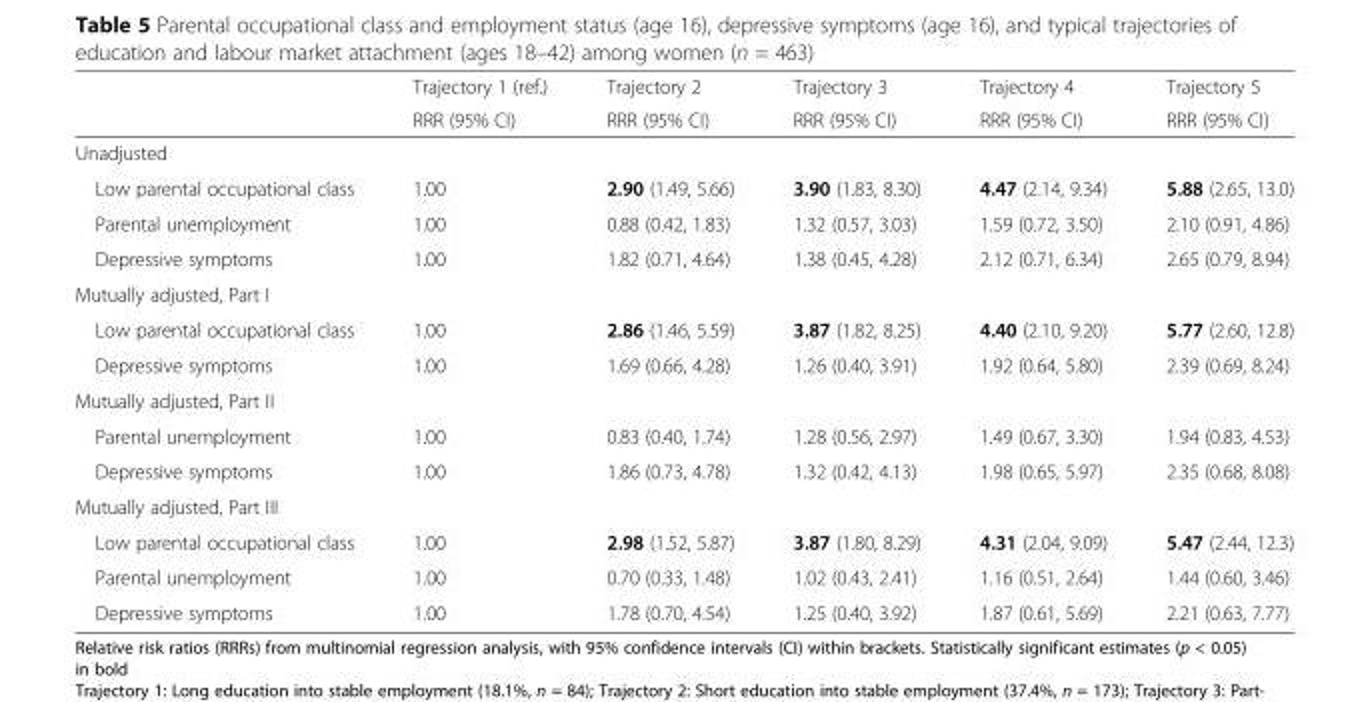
<table><thead><tr><td rowspan="2"></td><td rowspan="2">Trajectory 1 (ref.) RRR (95% CI)</td><td rowspan="2">Trajectory 2 RRR (95% CI)</td><td rowspan="2">Trajectory 3 RRR (95% CI)</td><td rowspan="2">Trajectory 4 RRR (95% CI)</td><td rowspan="2">Trajectory 5 RRR (95% CI)</td></tr><tr></tr></thead><tbody><tr><td colspan="6">Unadjusted</td></tr><tr><td>Low parental occupational class</td><td>1.00</td><td>2.90 (1.49, 5.66)</td><td>3.90 (1.83, 8.30)</td><td>4.47 (2.14, 9.34)</td><td>5.88 (2.65, 13.0)</td></tr><tr><td>Parental unemployment</td><td>1.00</td><td>0.88 (0.42, 1.83)</td><td>1.32 (0.57, 3.03)</td><td>1.59 (0.72, 3.50)</td><td>2.10 (0.91, 4.86)</td></tr><tr><td>Depressive symptoms</td><td>1.00</td><td>1.82 (0.71, 4.64)</td><td>1.38 (0.45, 4.28)</td><td>2.12 (0.71, 6.34)</td><td>2.65 (0.79, 8.94)</td></tr><tr><td colspan="6">Mutually adjusted, Part I</td></tr><tr><td>Low parental occupational class</td><td>1.00</td><td>2.86 (1.46, 5.59)</td><td>3.87 (1.82, 8.25)</td><td>4.40 (2.10, 9.20)</td><td>5.77 (2.60, 12.8)</td></tr><tr><td>Depressive symptoms</td><td>1.00</td><td>1.69 (0.66, 4.28)</td><td>1.26 (0.40, 3.91)</td><td>1.92 (0.64, 5.80)</td><td>2.39 (0.69, 8.24)</td></tr><tr><td colspan="6">Mutually adjusted, Part II</td></tr><tr><td>Parental unemployment</td><td>1.00</td><td>0.83 (0.40, 1.74)</td><td>1.28 (0.56, 2.97)</td><td>1.49 (0.67, 3.30)</td><td>1.94 (0.83, 4.53)</td></tr><tr><td>Depressive symptoms</td><td>1.00</td><td>1.86 (0.73, 4.78)</td><td>1.32 (0.42, 4.13)</td><td>1.98 (0.65, 5.97)</td><td>2.35 (0.68, 8.08)</td></tr><tr><td colspan="6">Mutually adjusted, Part III</td></tr><tr><td>Low parental occupational class</td><td>1.00</td><td>2.98 (1.52, 5.87)</td><td>3.87 (1.80, 8.29)</td><td>4.31 (2.04, 9.09)</td><td>5.47 (2.44, 12.3)</td></tr><tr><td>Parental unemployment</td><td>1.00</td><td>0.70 (0.33, 1.48)</td><td>1.02 (0.43, 2.41)</td><td>1.16 (0.51, 2.64)</td><td>1.44 (0.60, 3.46)</td></tr><tr><td>Depressive symptoms</td><td>1.00</td><td>1.78 (0.70, 4.54)</td><td>1.25 (0.40, 3.92)</td><td>1.87 (0.61, 5.69)</td><td>2.21 (0.63, 7.77)</td></tr></tbody></table>